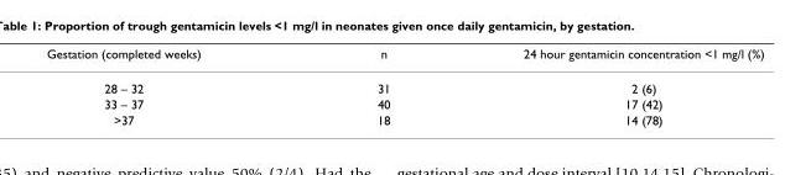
<table><thead><tr><td>Gestation (completed weeks)</td><td>n</td><td>24 hour gentamicin concentration &lt;1 mg/l (%)</td></tr></thead><tbody><tr><td>28 – 32</td><td>31</td><td>2 (6)</td></tr><tr><td>33 – 37</td><td>40</td><td>17 (42)</td></tr><tr><td>&gt;37</td><td>18</td><td>14 (78)</td></tr></tbody></table>